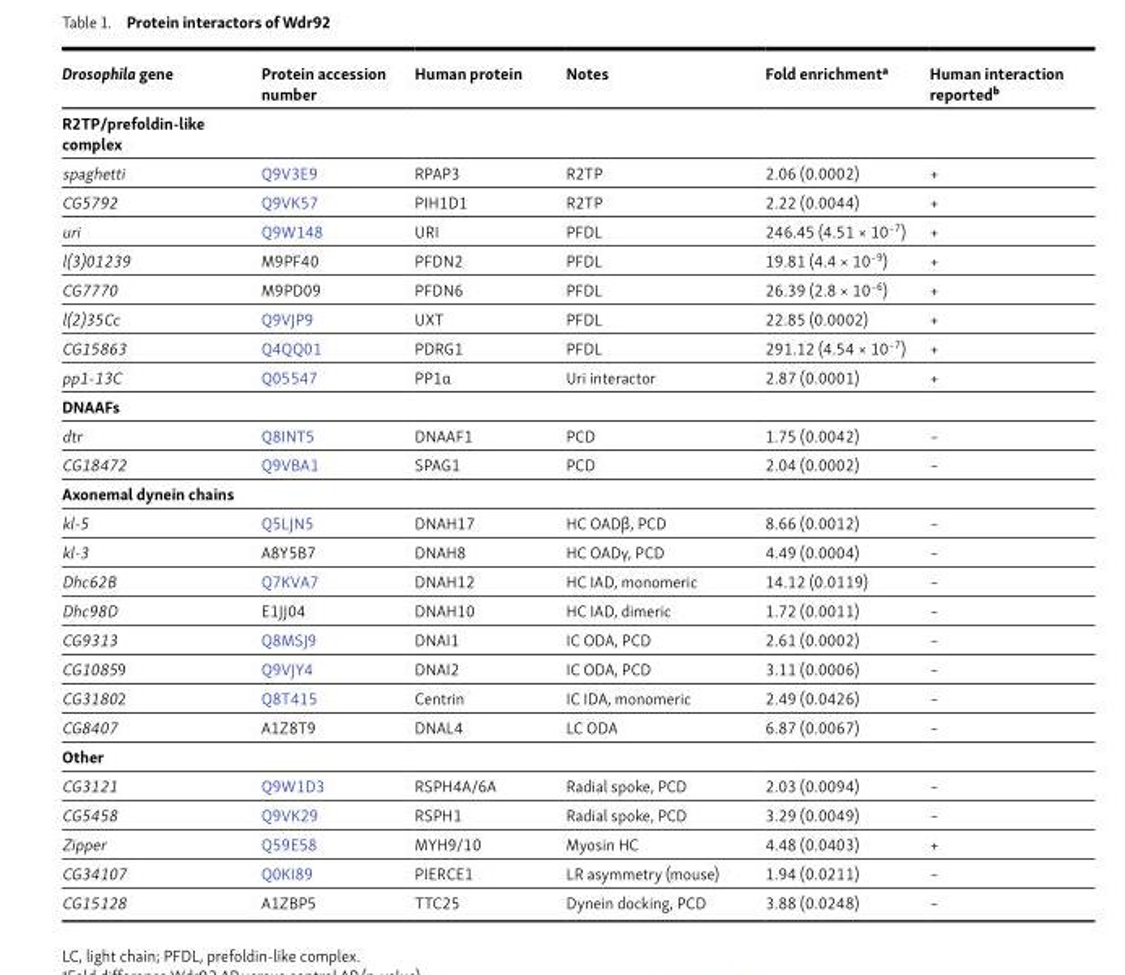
<table><thead><tr><td>Drosophila gene</td><td>Protein accession number</td><td>Human protein</td><td>Notes</td><td>Fold enrichment<sup>a</sup></td><td>Human interaction reported<sup>b</sup></td></tr></thead><tbody><tr><td colspan="6">R2TP/prefoldin-like complex</td></tr><tr><td>spaghetti</td><td>Q9V3E9</td><td>RPAP3</td><td>R2TP</td><td>2.06 (0.0002)</td><td>+</td></tr><tr><td>CG5792</td><td>Q9VK57</td><td>PIH1D1</td><td>R2TP</td><td>2.22 (0.0044)</td><td>+</td></tr><tr><td>uri</td><td>Q9W148</td><td>URI</td><td>PFDL</td><td>246.45 (4.51 × 10<sup>−7</sup>)</td><td>+</td></tr><tr><td>l(3)01239</td><td>M9PF40</td><td>PFDN2</td><td>PFDL</td><td>19.81 (4.4 × 10<sup>−9</sup>)</td><td>+</td></tr><tr><td>CG7770</td><td>M9PD09</td><td>PFDN6</td><td>PFDL</td><td>26.39 (2.8 × 10<sup>−6</sup>)</td><td>+</td></tr><tr><td>l(2)35Cc</td><td>Q9VJP9</td><td>UXT</td><td>PFDL</td><td>22.85 (0.0002)</td><td>+</td></tr><tr><td>CG15863</td><td>Q4QQ01</td><td>PDRG1</td><td>PFDL</td><td>291.12 (4.54 × 10<sup>−7</sup>)</td><td>+</td></tr><tr><td>pp1-13C</td><td>Q05547</td><td>PP1α</td><td>Uri interactor</td><td>2.87 (0.0001)</td><td>+</td></tr><tr><td colspan="6">DNA AFs</td></tr><tr><td>dtr</td><td>Q8INT5</td><td>DNA AF1</td><td>PCD</td><td>1.75 (0.0042)</td><td>−</td></tr><tr><td>CG18472</td><td>Q9VBA1</td><td>SPAG1</td><td>PCD</td><td>2.04 (0.0002)</td><td>−</td></tr><tr><td colspan="6">Axonemal dynein chains</td></tr><tr><td>kl-5</td><td>Q5LJN5</td><td>DNAH17</td><td>HC OADβ, PCD</td><td>8.66 (0.0012)</td><td>−</td></tr><tr><td>kl-3</td><td>A8Y5B7</td><td>DNAH8</td><td>HC OADγ, PCD</td><td>4.49 (0.0004)</td><td>−</td></tr><tr><td>Dhc62B</td><td>Q7KVA7</td><td>DNAH12</td><td>HC IAD, monomeric</td><td>14.12 (0.0119)</td><td>−</td></tr><tr><td>Dhc98D</td><td>E1JJ04</td><td>DNAH10</td><td>HC IAD, dimeric</td><td>1.72 (0.0011)</td><td>−</td></tr><tr><td>CG9313</td><td>Q8MSJ9</td><td>DNAI1</td><td>IC ODA, PCD</td><td>2.61 (0.0002)</td><td>−</td></tr><tr><td>CG10859</td><td>Q9VJY4</td><td>DNAI2</td><td>IC ODA, PCD</td><td>3.11 (0.0006)</td><td>−</td></tr><tr><td>CG31802</td><td>Q8T415</td><td>Centrin</td><td>IC IDA, monomeric</td><td>2.49 (0.0426)</td><td>−</td></tr><tr><td>CG8407</td><td>A1Z8T9</td><td>DNAL4</td><td>LC ODA</td><td>6.87 (0.0067)</td><td>−</td></tr><tr><td colspan="6">Other</td></tr><tr><td>CG3121</td><td>Q9W1D3</td><td>RSPH4A/6A</td><td>Radial spoke, PCD</td><td>2.03 (0.0094)</td><td>−</td></tr><tr><td>CG5458</td><td>Q9VK29</td><td>RSPH1</td><td>Radial spoke, PCD</td><td>3.29 (0.0049)</td><td>−</td></tr><tr><td>Zipper</td><td>Q59E58</td><td>MYH9/10</td><td>Myosin HC</td><td>4.48 (0.0403)</td><td>+</td></tr><tr><td>CG34107</td><td>Q0KI89</td><td>PIE RCE1</td><td>LR asymmetry (mouse)</td><td>1.94 (0.0211)</td><td>−</td></tr><tr><td>CG15128</td><td>A1ZBP5</td><td>TTC25</td><td>Dynein docking, PCD</td><td>3.88 (0.0248)</td><td>−</td></tr></tbody></table>